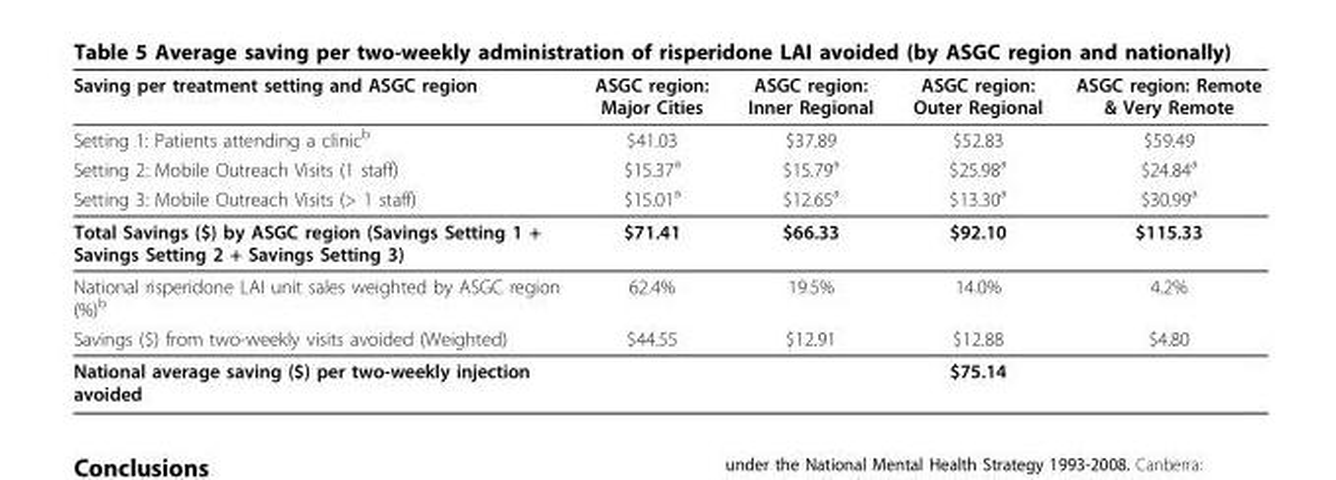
<table><thead><tr><td>Saving per treatment setting and ASGC region</td><td>ASGC region: Major Cities</td><td>ASGC region: Inner Regional</td><td>ASGC region: Outer Regional</td><td>ASGC region: Remote &amp; Very Remote</td></tr></thead><tbody><tr><td>Setting 1: Patients attending a clinic<sup>b</sup></td><td>$41.03</td><td>$37.89</td><td>$52.83</td><td>$59.49</td></tr><tr><td>Setting 2: Mobile Outreach Visits (1 staff)</td><td>$15.37<sup>a</sup></td><td>$15.79<sup>a</sup></td><td>$25.98<sup>a</sup></td><td>$24.84<sup>a</sup></td></tr><tr><td>Setting 3: Mobile Outreach Visits (&gt; 1 staff)</td><td>$15.01<sup>a</sup></td><td>$12.65<sup>a</sup></td><td>$13.30<sup>a</sup></td><td>$30.99<sup>a</sup></td></tr><tr><td>Total Savings ($) by ASGC region (Savings Setting 1 + Savings Setting 2 + Savings Setting 3)</td><td>$71.41</td><td>$66.33</td><td>$92.10</td><td>$115.33</td></tr><tr><td>National risperidone LAI unit sales weighted by ASGC region (%)<sup>b</sup></td><td>62.4%</td><td>19.5%</td><td>14.0%</td><td>4.2%</td></tr><tr><td>Savings ($) from two-weekly visits avoided (Weighted)</td><td>$44.55</td><td>$12.91</td><td>$12.88</td><td>$4.80</td></tr><tr><td>National average saving ($) per two-weekly injection avoided</td><td></td><td></td><td>$75.14</td><td></td></tr></tbody></table>